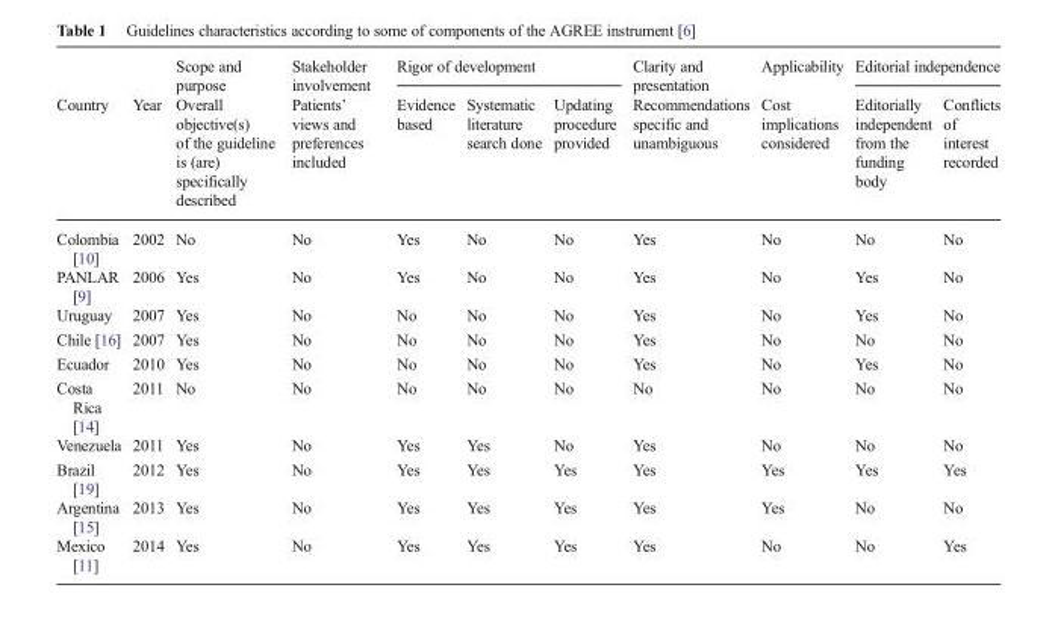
<table><thead><tr><td rowspan="2">Country</td><td rowspan="2">Year</td><td rowspan="2">Scope and purpose Overall objective(s) of the guideline is (are) specifically described</td><td rowspan="2">Stakeholder involvement Patients’ views and preferences included</td><td colspan="3">Rigor of development</td><td rowspan="2">Clarity and presentation Recommendations specific and unambiguous</td><td rowspan="2">Applicability Cost implications considered</td><td colspan="2">Editorial independence</td></tr><tr><td>Evidence based</td><td>Systematic literature search done</td><td>Updating procedure provided</td><td>Editorially independent from the funding body</td><td>Conflicts of interest recorded</td></tr></thead><tbody><tr><td>Colombia [10]</td><td>2002</td><td>No</td><td>No</td><td>Yes</td><td>No</td><td>No</td><td>Yes</td><td>No</td><td>No</td><td>No</td></tr><tr><td>PANLAR [9]</td><td>2006</td><td>Yes</td><td>No</td><td>Yes</td><td>No</td><td>No</td><td>Yes</td><td>No</td><td>Yes</td><td>No</td></tr><tr><td>Uruguay</td><td>2007</td><td>Yes</td><td>No</td><td>No</td><td>No</td><td>No</td><td>Yes</td><td>No</td><td>Yes</td><td>No</td></tr><tr><td>Chile [16]</td><td>2007</td><td>Yes</td><td>No</td><td>No</td><td>No</td><td>No</td><td>Yes</td><td>No</td><td>No</td><td>No</td></tr><tr><td>Ecuador</td><td>2010</td><td>Yes</td><td>No</td><td>No</td><td>No</td><td>No</td><td>Yes</td><td>No</td><td>Yes</td><td>No</td></tr><tr><td>Costa Rica [14]</td><td>2011</td><td>No</td><td>No</td><td>No</td><td>No</td><td>No</td><td>No</td><td>No</td><td>No</td><td>No</td></tr><tr><td>Venezuela</td><td>2011</td><td>Yes</td><td>No</td><td>Yes</td><td>Yes</td><td>No</td><td>Yes</td><td>No</td><td>No</td><td>No</td></tr><tr><td>Brazil [19]</td><td>2012</td><td>Yes</td><td>No</td><td>Yes</td><td>Yes</td><td>Yes</td><td>Yes</td><td>Yes</td><td>Yes</td><td>Yes</td></tr><tr><td>Argentina [15]</td><td>2013</td><td>Yes</td><td>No</td><td>Yes</td><td>Yes</td><td>Yes</td><td>Yes</td><td>Yes</td><td>No</td><td>No</td></tr><tr><td>Mexico [11]</td><td>2014</td><td>Yes</td><td>No</td><td>Yes</td><td>Yes</td><td>Yes</td><td>Yes</td><td>No</td><td>No</td><td>Yes</td></tr></tbody></table>